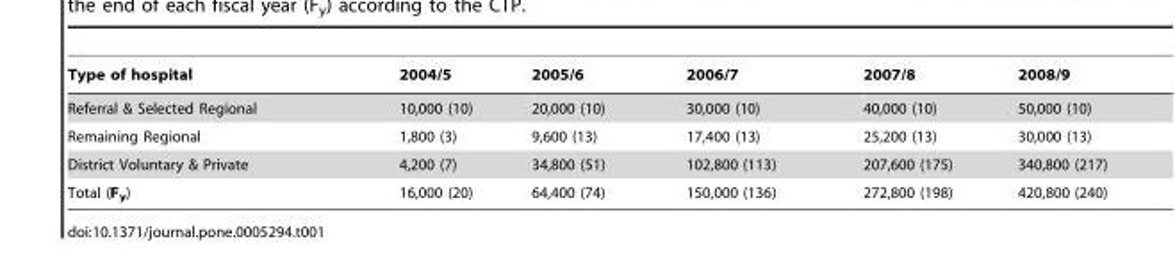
<table><thead><tr><td>Type of hospital</td><td>2004/5</td><td>2005/6</td><td>2006/7</td><td>2007/8</td><td>2008/9</td></tr></thead><tbody><tr><td>Referral &amp; Selected Regional</td><td>10,000 (10)</td><td>20,000 (10)</td><td>30,000 (10)</td><td>40,000 (10)</td><td>50,000 (10)</td></tr><tr><td>Remaining Regional</td><td>1,800 (3)</td><td>9,600 (13)</td><td>17,400 (13)</td><td>25,200 (13)</td><td>30,000 (13)</td></tr><tr><td>District Voluntary &amp; Private</td><td>4,200 (7)</td><td>34,800 (51)</td><td>102,800 (113)</td><td>207,600 (175)</td><td>340,800 (217)</td></tr><tr><td>Total (F<sub>y</sub>)</td><td>16,000 (20)</td><td>64,400 (74)</td><td>150,000 (136)</td><td>272,800 (198)</td><td>420,800 (240)</td></tr></tbody></table>